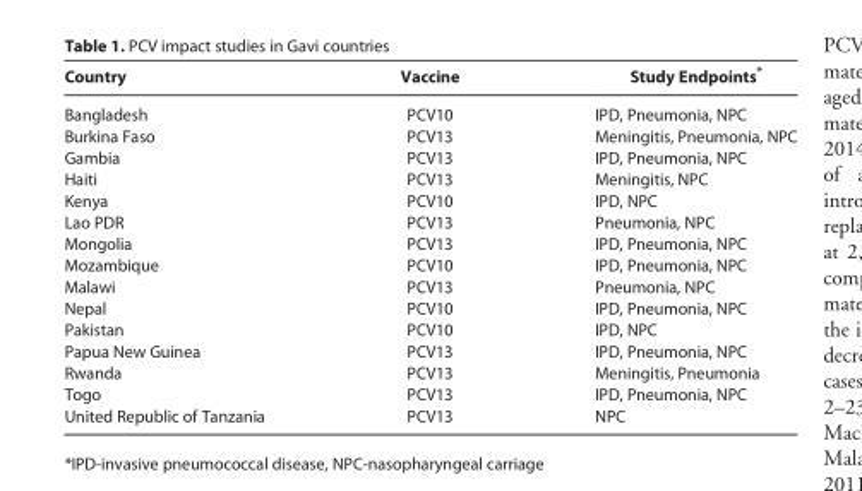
<table><thead><tr><td>Country</td><td>Vaccine</td><td>Study Endpoints*</td></tr></thead><tbody><tr><td>Bangladesh</td><td>PCV10</td><td>IPD, Pneumonia, NPC</td></tr><tr><td>Burkina Faso</td><td>PCV13</td><td>Meningitis, Pneumonia, NPC</td></tr><tr><td>Gambia</td><td>PCV13</td><td>IPD, Pneumonia, NPC</td></tr><tr><td>Haiti</td><td>PCV13</td><td>Meningitis, NPC</td></tr><tr><td>Kenya</td><td>PCV10</td><td>IPD, NPC</td></tr><tr><td>Lao PDR</td><td>PCV13</td><td>Pneumonia, NPC</td></tr><tr><td>Mongolia</td><td>PCV13</td><td>IPD, Pneumonia, NPC</td></tr><tr><td>Mozambique</td><td>PCV10</td><td>IPD, Pneumonia, NPC</td></tr><tr><td>Malawi</td><td>PCV13</td><td>Pneumonia, NPC</td></tr><tr><td>Nepal</td><td>PCV10</td><td>IPD, Pneumonia, NPC</td></tr><tr><td>Pakistan</td><td>PCV10</td><td>IPD, NPC</td></tr><tr><td>Papua New Guinea</td><td>PCV13</td><td>IPD, Pneumonia, NPC</td></tr><tr><td>Rwanda</td><td>PCV13</td><td>Meningitis, Pneumonia</td></tr><tr><td>Togo</td><td>PCV13</td><td>IPD, Pneumonia, NPC</td></tr><tr><td>United Republic of Tanzania</td><td>PCV13</td><td>NPC</td></tr></tbody></table>